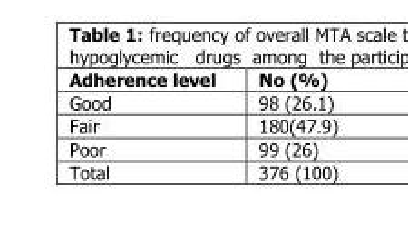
<table><thead><tr><td>Adherence level</td><td>No (%)</td></tr></thead><tbody><tr><td>Good</td><td>98 (26.1)</td></tr><tr><td>Fair</td><td>180(47.9)</td></tr><tr><td>Poor</td><td>99 (26)</td></tr><tr><td>Total</td><td>376 (100)</td></tr></tbody></table>